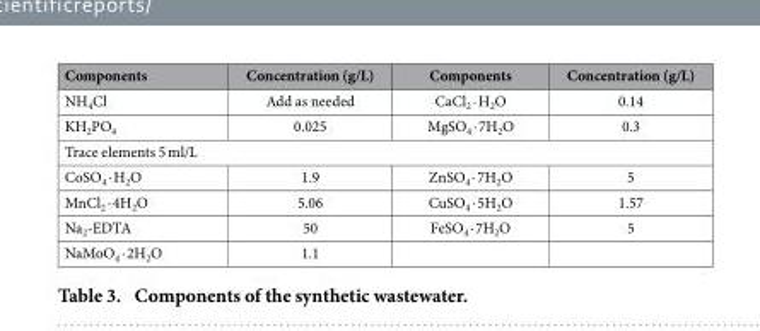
<table><thead><tr><td>Components</td><td>Concentration (g/L)</td><td>Components</td><td>Concentration (g/L)</td></tr></thead><tbody><tr><td>NH<sub>4</sub>Cl</td><td>Add as needed</td><td>CaCl<sub>2</sub> · H<sub>2</sub>O</td><td>0.14</td></tr><tr><td>KH<sub>2</sub>PO<sub>4</sub></td><td>0.025</td><td>MgSO<sub>4</sub> · 7H<sub>2</sub>O</td><td>0.3</td></tr><tr><td colspan="4">Trace elements 5 ml/L</td></tr><tr><td>CoSO<sub>4</sub> · H<sub>2</sub>O</td><td>1.9</td><td>ZnSO<sub>4</sub> · 7H<sub>2</sub>O</td><td>5</td></tr><tr><td>MnCl<sub>2</sub> · 4H<sub>2</sub>O</td><td>5.06</td><td>CuSO<sub>4</sub> · 5H<sub>2</sub>O</td><td>1.57</td></tr><tr><td>Na<sub>2</sub>-EDTA</td><td>50</td><td>FeSO<sub>4</sub> · 7H<sub>2</sub>O</td><td>5</td></tr><tr><td>NaMoO<sub>4</sub> · 2H<sub>2</sub>O</td><td>1.1</td><td></td><td></td></tr></tbody></table>